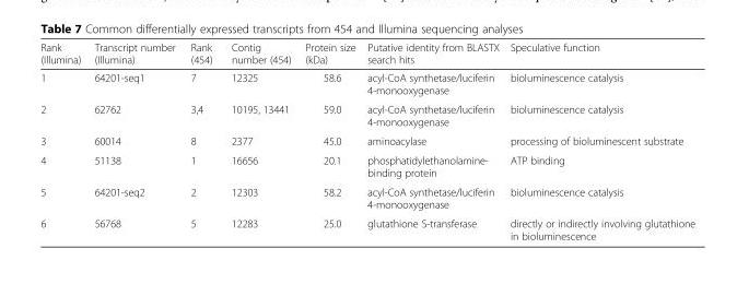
<table><thead><tr><td>Rank (Illumina)</td><td>Transcript number (Illumina)</td><td>Rank (454)</td><td>Contig number (454)</td><td>Protein size (kDa)</td><td>Putative identity from BLASTX search hits</td><td>Speculative function</td></tr></thead><tbody><tr><td>1</td><td>64201-seq1</td><td>7</td><td>12325</td><td>58.6</td><td>acyl-CoA synthetase/luciferin 4-monooxygenase</td><td>bioluminescence catalysis</td></tr><tr><td>2</td><td>62762</td><td>3,4</td><td>10195, 13441</td><td>59.0</td><td>acyl-CoA synthetase/luciferin 4-monooxygenase</td><td>bioluminescence catalysis</td></tr><tr><td>3</td><td>60014</td><td>8</td><td>2377</td><td>45.0</td><td>aminoacylase</td><td>processing of bioluminescent substrate</td></tr><tr><td>4</td><td>51138</td><td>1</td><td>16656</td><td>20.1</td><td>phosphatidylethanolamine- binding protein</td><td>ATP binding</td></tr><tr><td>5</td><td>64201-seq2</td><td>2</td><td>12303</td><td>58.2</td><td>acyl-CoA synthetase/luciferin 4-monooxygenase</td><td>bioluminescence catalysis</td></tr><tr><td>6</td><td>56768</td><td>5</td><td>12283</td><td>25.0</td><td>glutathione S-transferase</td><td>directly or indirectly involving glutathione in bioluminescence</td></tr></tbody></table>